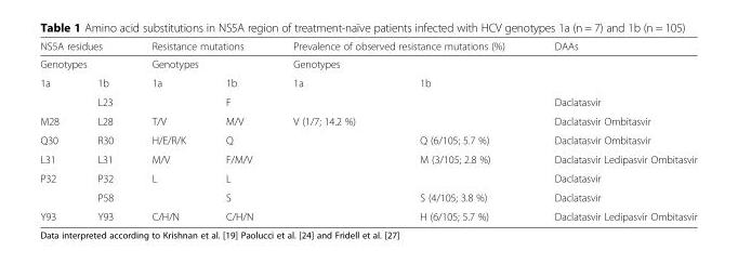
<table><thead><tr><td rowspan="2" colspan="2">NS5A residues Genotypes</td><td rowspan="2" colspan="2">Resistance mutations Genotypes</td><td rowspan="2" colspan="2">Prevalence of observed resistance mutations (%) Genotypes</td><td rowspan="3">DAAs</td></tr><tr></tr><tr><td>1a</td><td>1b</td><td>1a</td><td>1b</td><td>1a</td><td>1b</td></tr></thead><tbody><tr><td></td><td>L23</td><td></td><td>F</td><td></td><td></td><td>Daclatasvir</td></tr><tr><td>M28</td><td>L28</td><td>T/V</td><td>M/V</td><td>V (1/7; 14.2 %)</td><td></td><td>Daclatasvir Ombitasvir</td></tr><tr><td>Q30</td><td>R30</td><td>H/E/R/K</td><td>Q</td><td></td><td>Q (6/105; 5.7 %)</td><td>Daclatasvir Ombitasvir</td></tr><tr><td>L31</td><td>L31</td><td>M/V</td><td>F/M/V</td><td></td><td>M (3/105; 2.8 %)</td><td>Daclatasvir Ledipasvir Ombitasvir</td></tr><tr><td rowspan="2">P32</td><td>P32</td><td>L</td><td>L</td><td></td><td></td><td>Daclatasvir</td></tr><tr><td>P58</td><td></td><td>S</td><td></td><td>S (4/105; 3.8 %)</td><td>Daclatasvir</td></tr><tr><td>Y93</td><td>Y93</td><td>C/H/N</td><td>C/H/N</td><td></td><td>H (6/105; 5.7 %)</td><td>Daclatasvir Ledipasvir Ombitasvir</td></tr></tbody></table>